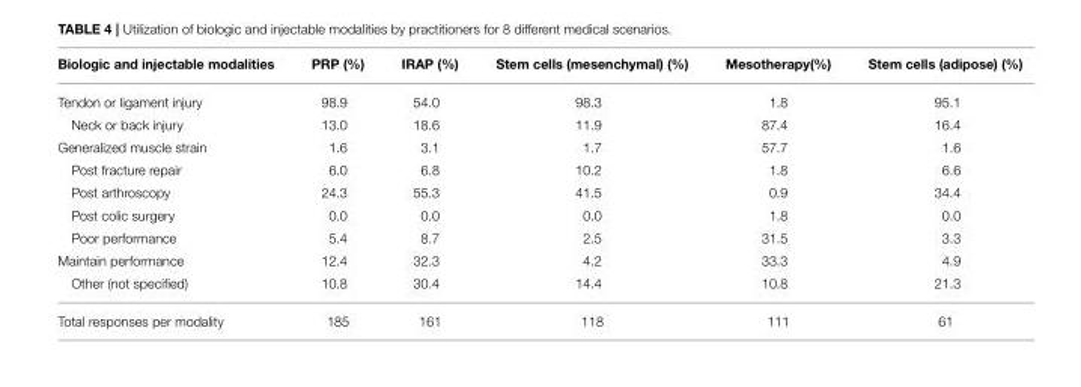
<table><thead><tr><td>Biologic and injectable modalities</td><td>PRP (%)</td><td>IRAP (%)</td><td>Stem cells (mesenchymal) (%)</td><td>Mesotherapy(%)</td><td>Stem cells (adipose) (%)</td></tr></thead><tbody><tr><td>Tendon or ligament injury</td><td>98.9</td><td>54.0</td><td>98.3</td><td>1.8</td><td>95.1</td></tr><tr><td>Neck or back injury</td><td>13.0</td><td>18.6</td><td>11.9</td><td>87.4</td><td>16.4</td></tr><tr><td>Generalized muscle strain</td><td>1.6</td><td>3.1</td><td>1.7</td><td>57.7</td><td>1.6</td></tr><tr><td>Post fracture repair</td><td>6.0</td><td>6.8</td><td>10.2</td><td>1.8</td><td>6.6</td></tr><tr><td>Post arthroscopy</td><td>24.3</td><td>55.3</td><td>41.5</td><td>0.9</td><td>34.4</td></tr><tr><td>Post colic surgery</td><td>0.0</td><td>0.0</td><td>0.0</td><td>1.8</td><td>0.0</td></tr><tr><td>Poor performance</td><td>5.4</td><td>8.7</td><td>2.5</td><td>31.5</td><td>3.3</td></tr><tr><td>Maintain performance</td><td>12.4</td><td>32.3</td><td>4.2</td><td>33.3</td><td>4.9</td></tr><tr><td>Other (not specified)</td><td>10.8</td><td>30.4</td><td>14.4</td><td>10.8</td><td>21.3</td></tr><tr><td>Total responses per modality</td><td>185</td><td>161</td><td>118</td><td>111</td><td>61</td></tr></tbody></table>